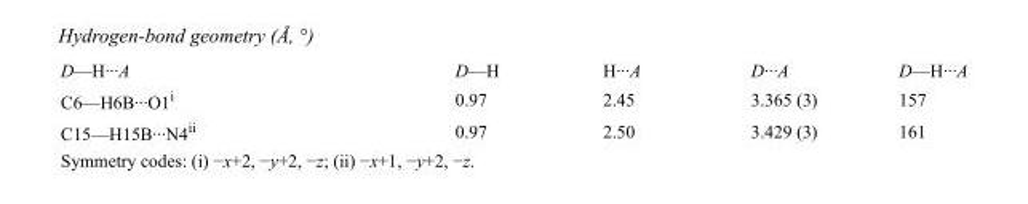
<table><tbody><tr><td>D—H···A</td><td>D—H</td><td>H···A</td><td>D···A</td><td>D—H···A</td></tr><tr><td>C6—H6B···O1<sup>i</sup></td><td>0.97</td><td>2.45</td><td>3.365 (3)</td><td>157</td></tr><tr><td>C15—H15B···N4<sup>ii</sup></td><td>0.97</td><td>2.50</td><td>3.429 (3)</td><td>161</td></tr></tbody></table>